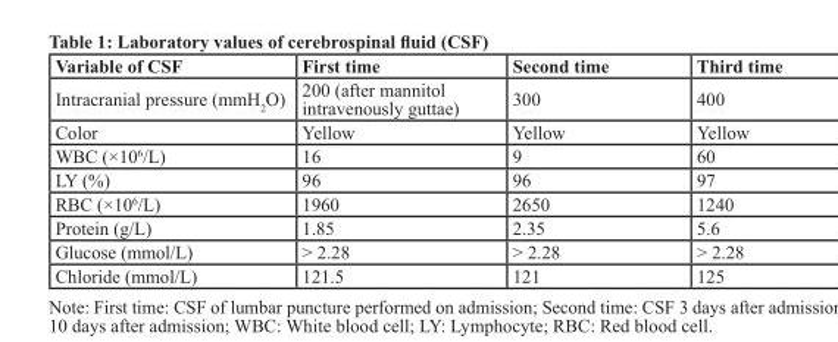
<table><thead><tr><td>Variable of CSF</td><td>First time</td><td>Second time</td><td>Third time</td></tr></thead><tbody><tr><td>Intracranial pressure (mmH<sub>2</sub>O)</td><td>200 (after mannitol intravenously guttae)</td><td>300</td><td>400</td></tr><tr><td>Color</td><td>Yellow</td><td>Yellow</td><td>Yellow</td></tr><tr><td>WBC (×10<sup>6</sup>/L)</td><td>16</td><td>9</td><td>60</td></tr><tr><td>LY (%)</td><td>96</td><td>96</td><td>97</td></tr><tr><td>RBC (×10<sup>6</sup>/L)</td><td>1960</td><td>2650</td><td>1240</td></tr><tr><td>Protein (g/L)</td><td>1.85</td><td>2.35</td><td>5.6</td></tr><tr><td>Glucose (mmol/L)</td><td>&gt; 2.28</td><td>&gt; 2.28</td><td>&gt; 2.28</td></tr><tr><td>Chloride (mmol/L)</td><td>121.5</td><td>121</td><td>125</td></tr></tbody></table>